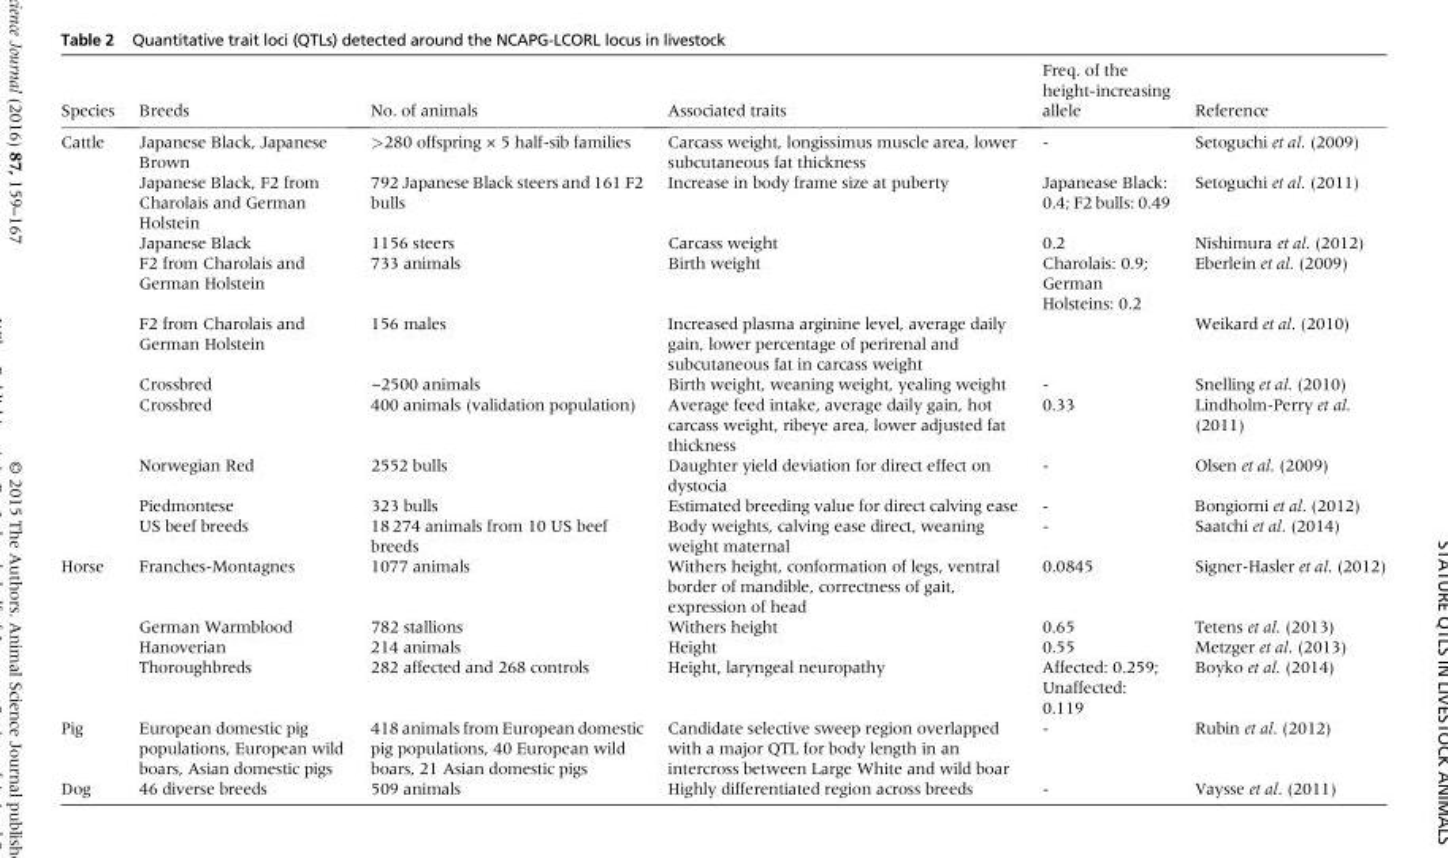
<table><thead><tr><td>Species</td><td>Breeds</td><td>No. of animals</td><td>Associated traits</td><td>Freq. of the height-increasing allele</td><td>Reference</td></tr></thead><tbody><tr><td rowspan="10">Cattle</td><td>Japanese Black, Japanese Brown</td><td>&gt;280 offspring × 5 half-sib families</td><td>Carcass weight, longissimus muscle area, lower subcutaneous fat thickness</td><td>-</td><td>Setoguchi et al. (2009)</td></tr><tr><td>Japanese Black, F2 from Charolais and German Holstein</td><td>792 Japanese Black steers and 161 F2 bulls</td><td>Increase in body frame size at puberty</td><td>Japanease Black: 0.4; F2 bulls: 0.49</td><td>Setoguchi et al. (2011)</td></tr><tr><td>Japanese Black</td><td>1156 steers</td><td>Carcass weight</td><td>0.2</td><td>Nishimura et al. (2012)</td></tr><tr><td>F2 from Charolais and German Holstein</td><td>733 animals</td><td>Birth weight</td><td>Charolais: 0.9; German Holsteins: 0.2</td><td>Eberlein et al. (2009)</td></tr><tr><td>F2 from Charolais and German Holstein</td><td>156 males</td><td>Increased plasma arginine level, average daily gain, lower percentage of perirenal and subcutaneous fat in carcass weight</td><td></td><td>Weikard et al. (2010)</td></tr><tr><td>Crossbred</td><td>~2500 animals</td><td>Birth weight, weaning weight, yealing weight</td><td>-</td><td>Snelling et al. (2010)</td></tr><tr><td>Crossbred</td><td>400 animals (validation population)</td><td>Average feed intake, average daily gain, hot carcass weight, ribeye area, lower adjusted fat thickness</td><td>0.33</td><td>Lindholm-Perry et al. (2011)</td></tr><tr><td>Norwegian Red</td><td>2552 bulls</td><td>Daughter yield deviation for direct effect on dystocia</td><td>-</td><td>Olsen et al. (2009)</td></tr><tr><td>Piedmontese</td><td>323 bulls</td><td>Estimated breeding value for direct calving ease</td><td>-</td><td>Bongiorni et al. (2012)</td></tr><tr><td>US beef breeds</td><td>18 274 animals from 10 US beef breeds</td><td>Body weights, calving ease direct, weaning weight maternal</td><td>-</td><td>Saatchi et al. (2014)</td></tr><tr><td rowspan="4">Horse</td><td>Franches-Montagnes</td><td>1077 animals</td><td>Withers height, conformation of legs, ventral border of mandible, correctness of gait, expression of head</td><td>0.0845</td><td>Signer-Hasler et al. (2012)</td></tr><tr><td>German Warmblood</td><td>782 stallions</td><td>Withers height</td><td>0.65</td><td>Tetens et al. (2013)</td></tr><tr><td>Hanoverian</td><td>214 animals</td><td>Height</td><td>0.55</td><td>Metzger et al. (2013)</td></tr><tr><td>Thoroughbreds</td><td>282 affected and 268 controls</td><td>Height, laryngeal neuropathy</td><td>Affected: 0.259; Unaffected: 0.119</td><td>Boyko et al. (2014)</td></tr><tr><td>Pig</td><td>European domestic pig populations, European wild boars, Asian domestic pigs</td><td>418 animals from European domestic pig populations, 40 European wild boars, 21 Asian domestic pigs</td><td>Candidate selective sweep region overlapped with a major QTL for body length in an intercross between Large White and wild boar</td><td>-</td><td>Rubin et al. (2012)</td></tr><tr><td>Dog</td><td>46 diverse breeds</td><td>509 animals</td><td>Highly differentiated region across breeds</td><td>-</td><td>Vaysse et al. (2011)</td></tr></tbody></table>